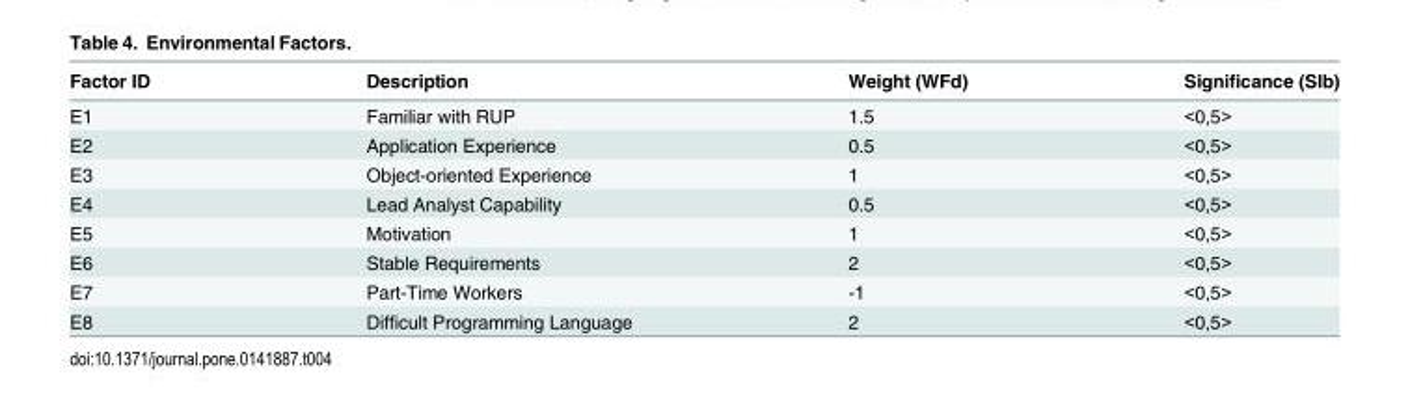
<table><thead><tr><td>Factor ID</td><td>Description</td><td>Weight (WFd)</td><td>Significance (SIb)</td></tr></thead><tbody><tr><td>E1</td><td>Familiar with RUP</td><td>1.5</td><td>&lt;0,5&gt;</td></tr><tr><td>E2</td><td>Application Experience</td><td>0.5</td><td>&lt;0,5&gt;</td></tr><tr><td>E3</td><td>Object-oriented Experience</td><td>1</td><td>&lt;0,5&gt;</td></tr><tr><td>E4</td><td>Lead Analyst Capability</td><td>0.5</td><td>&lt;0,5&gt;</td></tr><tr><td>E5</td><td>Motivation</td><td>1</td><td>&lt;0,5&gt;</td></tr><tr><td>E6</td><td>Stable Requirements</td><td>2</td><td>&lt;0,5&gt;</td></tr><tr><td>E7</td><td>Part-Time Workers</td><td>-1</td><td>&lt;0,5&gt;</td></tr><tr><td>E8</td><td>Difficult Programming Language</td><td>2</td><td>&lt;0,5&gt;</td></tr></tbody></table>